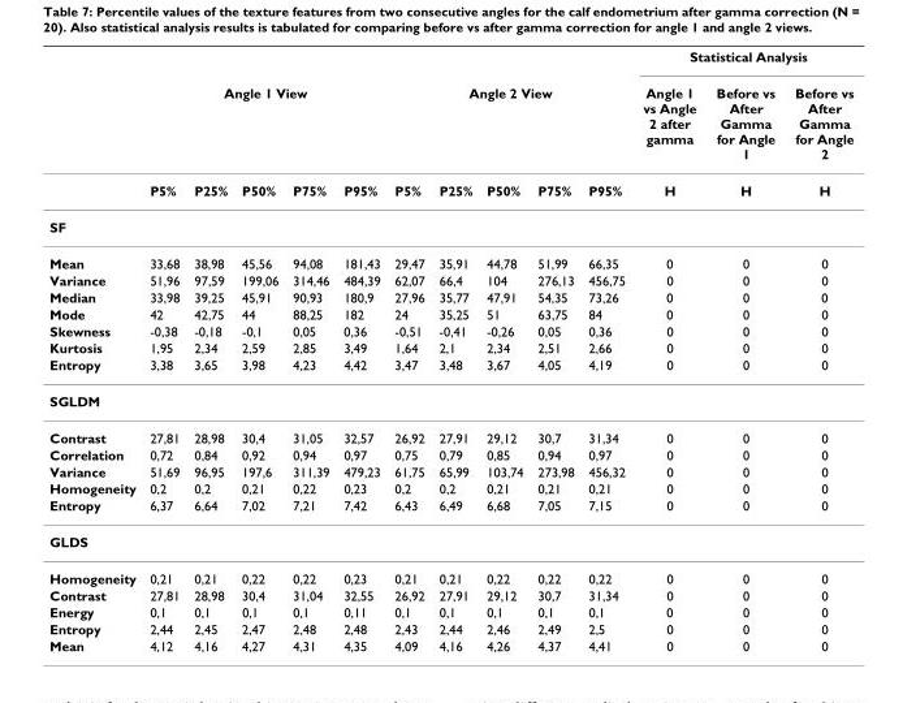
<table><thead><tr><td rowspan="2"></td><td></td><td></td><td></td><td></td><td></td><td></td><td></td><td></td><td></td><td></td><td colspan="3">Statistical Analysis</td></tr><tr><td colspan="5">Angle 1 View</td><td colspan="5">Angle 2 View</td><td>Angle 1 vs Angle 2 after gamma</td><td>Before vs After Gamma for Angle 1</td><td>Before vs After Gamma for Angle 2</td></tr></thead><tbody><tr><td></td><td>P5%</td><td>P25%</td><td>P50%</td><td>P75%</td><td>P95%</td><td>P5%</td><td>P25%</td><td>P50%</td><td>P75%</td><td>P95%</td><td>H</td><td>H</td><td>H</td></tr><tr><td colspan="14">SF</td></tr><tr><td>Mean</td><td>33,68</td><td>38,98</td><td>45,56</td><td>94,08</td><td>181,43</td><td>29,47</td><td>35,91</td><td>44,78</td><td>51,99</td><td>66,35</td><td>0</td><td>0</td><td>0</td></tr><tr><td>Variance</td><td>51,96</td><td>97,59</td><td>199,06</td><td>314,46</td><td>484,39</td><td>62,07</td><td>66,4</td><td>104</td><td>276,13</td><td>456,75</td><td>0</td><td>0</td><td>0</td></tr><tr><td>Median</td><td>33,98</td><td>39,25</td><td>45,91</td><td>90,93</td><td>180,9</td><td>27,96</td><td>35,77</td><td>47,91</td><td>54,35</td><td>73,26</td><td>0</td><td>0</td><td>0</td></tr><tr><td>Mode</td><td>42</td><td>42,75</td><td>44</td><td>88,25</td><td>182</td><td>24</td><td>35,25</td><td>51</td><td>63,75</td><td>84</td><td>0</td><td>0</td><td>0</td></tr><tr><td>Skewness</td><td>-0,38</td><td>-0,18</td><td>-0,1</td><td>0,05</td><td>0,36</td><td>-0,51</td><td>-0,41</td><td>-0,26</td><td>0,05</td><td>0,36</td><td>0</td><td>0</td><td>0</td></tr><tr><td>Kurtosis</td><td>1,95</td><td>2,34</td><td>2,59</td><td>2,85</td><td>3,49</td><td>1,64</td><td>2,1</td><td>2,34</td><td>2,51</td><td>2,66</td><td>0</td><td>0</td><td>0</td></tr><tr><td>Entropy</td><td>3,38</td><td>3,65</td><td>3,98</td><td>4,23</td><td>4,42</td><td>3,47</td><td>3,48</td><td>3,67</td><td>4,05</td><td>4,19</td><td>0</td><td>0</td><td>0</td></tr><tr><td colspan="14">SGLDM</td></tr><tr><td>Contrast</td><td>27,81</td><td>28,98</td><td>30,4</td><td>31,05</td><td>32,57</td><td>26,92</td><td>27,91</td><td>29,12</td><td>30,7</td><td>31,34</td><td>0</td><td>0</td><td>0</td></tr><tr><td>Correlation</td><td>0,72</td><td>0,84</td><td>0,92</td><td>0,94</td><td>0,97</td><td>0,75</td><td>0,79</td><td>0,85</td><td>0,94</td><td>0,97</td><td>0</td><td>0</td><td>0</td></tr><tr><td>Variance</td><td>51,69</td><td>96,95</td><td>197,6</td><td>311,39</td><td>479,23</td><td>61,75</td><td>65,99</td><td>103,74</td><td>273,98</td><td>456,32</td><td>0</td><td>0</td><td>0</td></tr><tr><td>Homogeneity</td><td>0,2</td><td>0,2</td><td>0,21</td><td>0,22</td><td>0,23</td><td>0,2</td><td>0,2</td><td>0,21</td><td>0,21</td><td>0,21</td><td>0</td><td>0</td><td>0</td></tr><tr><td>Entropy</td><td>6,37</td><td>6,64</td><td>7,02</td><td>7,21</td><td>7,42</td><td>6,43</td><td>6,49</td><td>6,68</td><td>7,05</td><td>7,15</td><td>0</td><td>0</td><td>0</td></tr><tr><td colspan="14">GLDS</td></tr><tr><td>Homogeneity</td><td>0,21</td><td>0,21</td><td>0,22</td><td>0,22</td><td>0,23</td><td>0,21</td><td>0,21</td><td>0,22</td><td>0,22</td><td>0,22</td><td>0</td><td>0</td><td>0</td></tr><tr><td>Contrast</td><td>27,81</td><td>28,98</td><td>30,4</td><td>31,04</td><td>32,55</td><td>26,92</td><td>27,91</td><td>29,12</td><td>30,7</td><td>31,34</td><td>0</td><td>0</td><td>0</td></tr><tr><td>Energy</td><td>0,1</td><td>0,1</td><td>0,1</td><td>0,1</td><td>0,11</td><td>0,1</td><td>0,1</td><td>0,1</td><td>0,1</td><td>0,1</td><td>0</td><td>0</td><td>0</td></tr><tr><td>Entropy</td><td>2,44</td><td>2,45</td><td>2,47</td><td>2,48</td><td>2,48</td><td>2,43</td><td>2,44</td><td>2,46</td><td>2,49</td><td>2,5</td><td>0</td><td>0</td><td>0</td></tr><tr><td>Mean</td><td>4,12</td><td>4,16</td><td>4,27</td><td>4,31</td><td>4,35</td><td>4,09</td><td>4,16</td><td>4,26</td><td>4,37</td><td>4,41</td><td>0</td><td>0</td><td>0</td></tr></tbody></table>